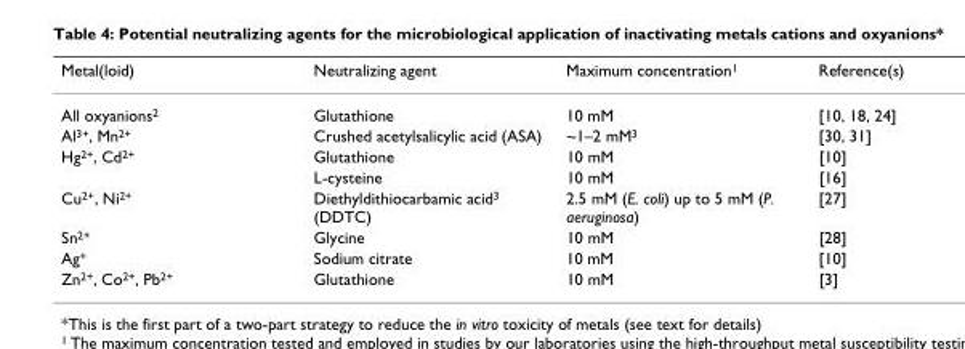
<table><thead><tr><td>Metal(loid)</td><td>Neutralizing agent</td><td>Maximum concentration1</td><td>Reference(s)</td></tr></thead><tbody><tr><td>All oxyanions2</td><td>Glutathione</td><td>10 mM</td><td>[10, 18, 24]</td></tr><tr><td>Al3+, Mn2+</td><td>Crushed acetylsalicylic acid (ASA)</td><td>~1–2 mM3</td><td>[30, 31]</td></tr><tr><td rowspan="2">Hg2+, Cd2+</td><td>Glutathione</td><td>10 mM</td><td>[10]</td></tr><tr><td>L-cysteine</td><td>10 mM</td><td>[16]</td></tr><tr><td>Cu2+, Ni2+</td><td>Diethyldithiocarbamic acid3 (DDTC)</td><td>2.5 mM (E. coli) up to 5 mM (P. aeruginosa)</td><td>[27]</td></tr><tr><td>Sn2+</td><td>Glycine</td><td>10 mM</td><td>[28]</td></tr><tr><td>Ag+</td><td>Sodium citrate</td><td>10 mM</td><td>[10]</td></tr><tr><td>Zn2+, Co2+, Pb2+</td><td>Glutathione</td><td>10 mM</td><td>[3]</td></tr></tbody></table>